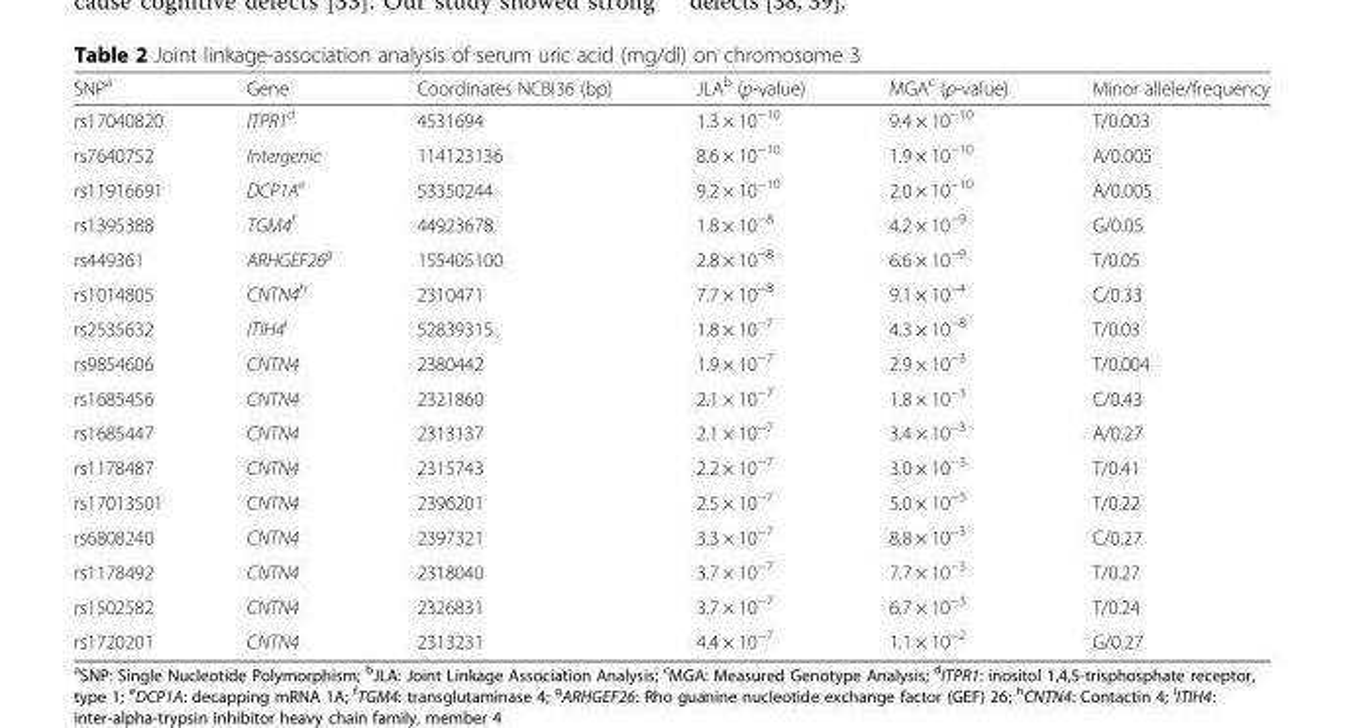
<table><thead><tr><td>SNP<sup>a</sup></td><td>Gene</td><td>Coordinates NCBI36 (bp)</td><td>JLA<sup>b</sup> (p-value)</td><td>MGA<sup>c</sup> (p-value)</td><td>Minor allele/frequency</td></tr></thead><tbody><tr><td>rs17040820</td><td>ITPR1<sup>d</sup></td><td>4531694</td><td>1.3 × 10<sup>−10</sup></td><td>9.4 × 10<sup>−10</sup></td><td>T/0.003</td></tr><tr><td>rs7640752</td><td>Intergenic</td><td>114123136</td><td>8.6 × 10<sup>−10</sup></td><td>1.9 × 10<sup>−10</sup></td><td>A/0.005</td></tr><tr><td>rs11916691</td><td>DCP1A<sup>e</sup></td><td>53350244</td><td>9.2 × 10<sup>−10</sup></td><td>2.0 × 10<sup>−10</sup></td><td>A/0.005</td></tr><tr><td>rs1395388</td><td>TGM4<sup>f</sup></td><td>44923678</td><td>1.8 × 10<sup>−8</sup></td><td>4.2 × 10<sup>−9</sup></td><td>G/0.05</td></tr><tr><td>rs449361</td><td>ARHGEF26<sup>g</sup></td><td>155405100</td><td>2.8 × 10<sup>−8</sup></td><td>6.6 × 10<sup>−9</sup></td><td>T/0.05</td></tr><tr><td>rs1014805</td><td>CNTN4<sup>h</sup></td><td>2310471</td><td>7.7 × 10<sup>−8</sup></td><td>9.1 × 10<sup>−4</sup></td><td>C/0.33</td></tr><tr><td>rs2535632</td><td>ITIH4<sup>i</sup></td><td>52839315</td><td>1.8 × 10<sup>−7</sup></td><td>4.3 × 10<sup>−8</sup></td><td>T/0.03</td></tr><tr><td>rs9854606</td><td>CNTN4</td><td>2380442</td><td>1.9 × 10<sup>−7</sup></td><td>2.9 × 10<sup>−3</sup></td><td>T/0.004</td></tr><tr><td>rs1685456</td><td>CNTN4</td><td>2321860</td><td>2.1 × 10<sup>−7</sup></td><td>1.8 × 10<sup>−3</sup></td><td>C/0.43</td></tr><tr><td>rs1685447</td><td>CNTN4</td><td>2313137</td><td>2.1 × 10<sup>−7</sup></td><td>3.4 × 10<sup>−3</sup></td><td>A/0.27</td></tr><tr><td>rs1178487</td><td>CNTN4</td><td>2315743</td><td>2.2 × 10<sup>−7</sup></td><td>3.0 × 10<sup>−3</sup></td><td>T/0.41</td></tr><tr><td>rs17013501</td><td>CNTN4</td><td>2396201</td><td>2.5 × 10<sup>−7</sup></td><td>5.0 × 10<sup>−3</sup></td><td>T/0.22</td></tr><tr><td>rs6808240</td><td>CNTN4</td><td>2397321</td><td>3.3 × 10<sup>−7</sup></td><td>8.8 × 10<sup>−3</sup></td><td>C/0.27</td></tr><tr><td>rs1178492</td><td>CNTN4</td><td>2318040</td><td>3.7 × 10<sup>−7</sup></td><td>7.7 × 10<sup>−3</sup></td><td>T/0.27</td></tr><tr><td>rs1502582</td><td>CNTN4</td><td>2326831</td><td>3.7 × 10<sup>−7</sup></td><td>6.7 × 10<sup>−3</sup></td><td>T/0.24</td></tr><tr><td>rs1720201</td><td>CNTN4</td><td>2313231</td><td>4.4 × 10<sup>−7</sup></td><td>1.1 × 10<sup>−2</sup></td><td>G/0.27</td></tr></tbody></table>